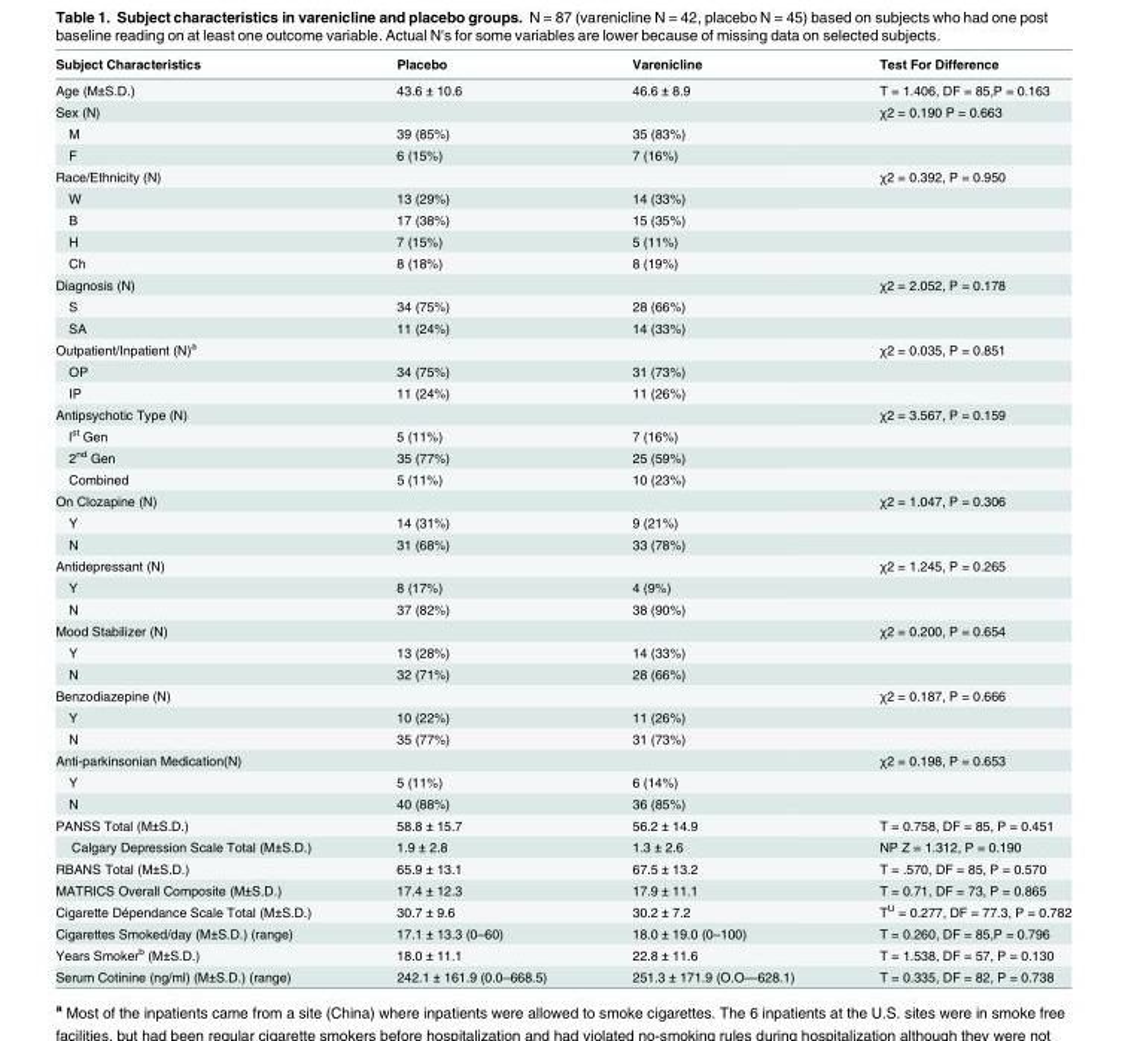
<table><thead><tr><td>Subject Characteristics</td><td>Placebo</td><td>Varenicline</td><td>Test For Difference</td></tr></thead><tbody><tr><td>Age (M±S.D.)</td><td>43.6 ± 10.6</td><td>46.6 ± 8.9</td><td>T = 1.406, DF = 85,P = 0.163</td></tr><tr><td>Sex (N)</td><td></td><td></td><td>χ2 = 0.190 P = 0.663</td></tr><tr><td>M</td><td>39 (85%)</td><td>35 (83%)</td><td></td></tr><tr><td>F</td><td>6 (15%)</td><td>7 (16%)</td><td></td></tr><tr><td>Race/Ethnicity (N)</td><td></td><td></td><td>χ2 = 0.392, P = 0.950</td></tr><tr><td>W</td><td>13 (29%)</td><td>14 (33%)</td><td></td></tr><tr><td>B</td><td>17 (38%)</td><td>15 (35%)</td><td></td></tr><tr><td>H</td><td>7 (15%)</td><td>5 (11%)</td><td></td></tr><tr><td>Ch</td><td>8 (18%)</td><td>8 (19%)</td><td></td></tr><tr><td>Diagnosis (N)</td><td></td><td></td><td>χ2 = 2.052, P = 0.178</td></tr><tr><td>S</td><td>34 (75%)</td><td>28 (66%)</td><td></td></tr><tr><td>SA</td><td>11 (24%)</td><td>14 (33%)</td><td></td></tr><tr><td>Outpatient/Inpatient (N)<sup>a</sup></td><td></td><td></td><td>χ2 = 0.035, P = 0.851</td></tr><tr><td>OP</td><td>34 (75%)</td><td>31 (73%)</td><td></td></tr><tr><td>IP</td><td>11 (24%)</td><td>11 (26%)</td><td></td></tr><tr><td>Antipsychotic Type (N)</td><td></td><td></td><td>χ2 = 3.567, P = 0.159</td></tr><tr><td>l<sup>st</sup> Gen</td><td>5 (11%)</td><td>7 (16%)</td><td></td></tr><tr><td>2<sup>nd</sup> Gen</td><td>35 (77%)</td><td>25 (59%)</td><td></td></tr><tr><td>Combined</td><td>5 (11%)</td><td>10 (23%)</td><td></td></tr><tr><td>On Clozapine (N)</td><td></td><td></td><td>χ2 = 1.047, P = 0.306</td></tr><tr><td>Y</td><td>14 (31%)</td><td>9 (21%)</td><td></td></tr><tr><td>N</td><td>31 (68%)</td><td>33 (78%)</td><td></td></tr><tr><td>Antidepressant (N)</td><td></td><td></td><td>χ2 = 1.245, P = 0.265</td></tr><tr><td>Y</td><td>8 (17%)</td><td>4 (9%)</td><td></td></tr><tr><td>N</td><td>37 (82%)</td><td>38 (90%)</td><td></td></tr><tr><td>Mood Stabilizer (N)</td><td></td><td></td><td>χ2 = 0.200, P = 0.654</td></tr><tr><td>Y</td><td>13 (28%)</td><td>14 (33%)</td><td></td></tr><tr><td>N</td><td>32 (71%)</td><td>28 (66%)</td><td></td></tr><tr><td>Benzodiazepine (N)</td><td></td><td></td><td>χ2 = 0.187, P = 0.666</td></tr><tr><td>Y</td><td>10 (22%)</td><td>11 (26%)</td><td></td></tr><tr><td>N</td><td>35 (77%)</td><td>31 (73%)</td><td></td></tr><tr><td>Anti-parkinsonian Medication(N)</td><td></td><td></td><td>χ2 = 0.198, P = 0.653</td></tr><tr><td>Y</td><td>5 (11%)</td><td>6 (14%)</td><td></td></tr><tr><td>N</td><td>40 (88%)</td><td>36 (85%)</td><td></td></tr><tr><td>PANSS Total (M±S.D.)</td><td>58.8 ± 15.7</td><td>56.2 ± 14.9</td><td>T = 0.758, DF = 85, P = 0.451</td></tr><tr><td>Calgary Depression Scale Total (M±S.D.)</td><td>1.9 ± 2.8</td><td>1.3 ± 2.6</td><td>NP Z = 1.312, P = 0.190</td></tr><tr><td>RBANS Total (M±S.D.)</td><td>65.9 ± 13.1</td><td>67.5 ± 13.2</td><td>T = .570, DF = 85, P = 0.570</td></tr><tr><td>MATRICS Overall Composite (M±S.D.)</td><td>17.4 ± 12.3</td><td>17.9 ± 11.1</td><td>T = 0.71, DF = 73, P = 0.865</td></tr><tr><td>Cigarette Dépendance Scale Total (M±S.D.)</td><td>30.7 ± 9.6</td><td>30.2 ± 7.2</td><td>T<sup>U</sup> = 0.277, DF = 77.3, P = 0.782</td></tr><tr><td>Cigarettes Smoked/day (M±S.D.) (range)</td><td>17.1 ± 13.3 (0–60)</td><td>18.0 ± 19.0 (0–100)</td><td>T = 0.260, DF = 85,P = 0.796</td></tr><tr><td>Years Smoker<sup>b</sup> (M±S.D.)</td><td>18.0 ± 11.1</td><td>22.8 ± 11.6</td><td>T = 1.538, DF = 57, P = 0.130</td></tr><tr><td>Serum Cotinine (ng/ml) (M±S.D.) (range)</td><td>242.1 ± 161.9 (0.0–668.5)</td><td>251.3 ± 171.9 (O.O—628.1)</td><td>T = 0.335, DF = 82, P = 0.738</td></tr></tbody></table>